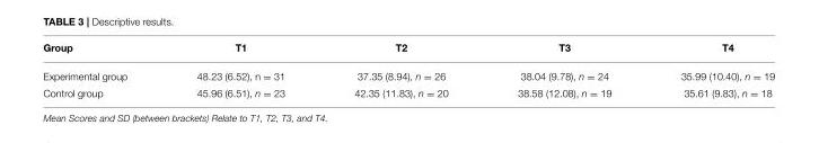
<table><thead><tr><td>Group</td><td>T1</td><td>T2</td><td>T3</td><td>T4</td></tr></thead><tbody><tr><td>Experimental group</td><td>48.23 (6.52), n = 31</td><td>37.35 (8.94), n = 26</td><td>38.04 (9.78), n = 24</td><td>35.99 (10.40), n = 19</td></tr><tr><td>Control group</td><td>45.96 (6.51), n = 23</td><td>42.35 (11.83), n = 20</td><td>38.58 (12.08), n = 19</td><td>35.61 (9.83), n = 18</td></tr></tbody></table>